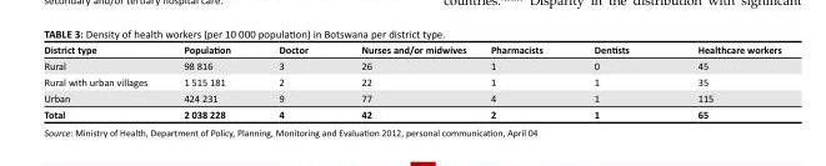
<table><thead><tr><td>District type</td><td>Population</td><td>Doctor</td><td>Nurses and/or midwives</td><td>Pharmacists</td><td>Dentists</td><td>Healthcare workers</td></tr></thead><tbody><tr><td>Rural</td><td>98 816</td><td>3</td><td>26</td><td>1</td><td>0</td><td>45</td></tr><tr><td>Rural with urban villages</td><td>1 515 181</td><td>2</td><td>22</td><td>1</td><td>1</td><td>35</td></tr><tr><td>Urban</td><td>424 231</td><td>9</td><td>77</td><td>4</td><td>1</td><td>115</td></tr><tr><td>Total</td><td>2 038 228</td><td>4</td><td>42</td><td>2</td><td>1</td><td>65</td></tr></tbody></table>